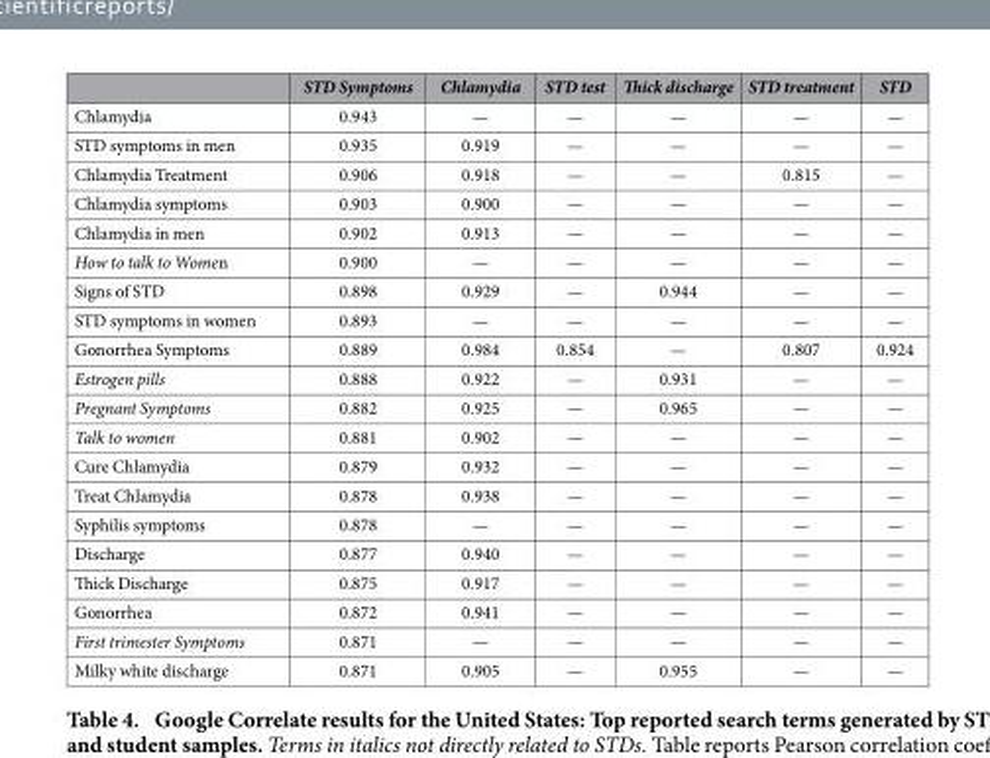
<table><thead><tr><td></td><td>STD Symptoms</td><td>Chlamydia</td><td>STD test</td><td>Thick discharge</td><td>STD treatment</td><td>STD</td></tr></thead><tbody><tr><td>Chlamydia</td><td>0.943</td><td>—</td><td>—</td><td>—</td><td>—</td><td>—</td></tr><tr><td>STD symptoms in men</td><td>0.935</td><td>0.919</td><td>—</td><td>—</td><td>—</td><td>—</td></tr><tr><td>Chlamydia Treatment</td><td>0.906</td><td>0.918</td><td>—</td><td>—</td><td>0.815</td><td>—</td></tr><tr><td>Chlamydia symptoms</td><td>0.903</td><td>0.900</td><td>—</td><td>—</td><td>—</td><td>—</td></tr><tr><td>Chlamydia in men</td><td>0.902</td><td>0.913</td><td>—</td><td>—</td><td>—</td><td>—</td></tr><tr><td>How to talk to Women</td><td>0.900</td><td>—</td><td>—</td><td>—</td><td>—</td><td>—</td></tr><tr><td>Signs of STD</td><td>0.898</td><td>0.929</td><td>—</td><td>0.944</td><td>—</td><td>—</td></tr><tr><td>STD symptoms in women</td><td>0.893</td><td>—</td><td>—</td><td>—</td><td>—</td><td>—</td></tr><tr><td>Gonorrhea Symptoms</td><td>0.889</td><td>0.984</td><td>0.854</td><td>—</td><td>0.807</td><td>0.924</td></tr><tr><td>Estrogen pills</td><td>0.888</td><td>0.922</td><td>—</td><td>0.931</td><td>—</td><td>—</td></tr><tr><td>Pregnant Symptoms</td><td>0.882</td><td>0.925</td><td>—</td><td>0.965</td><td>—</td><td>—</td></tr><tr><td>Talk to women</td><td>0.881</td><td>0.902</td><td>—</td><td>—</td><td>—</td><td>—</td></tr><tr><td>Cure Chlamydia</td><td>0.879</td><td>0.932</td><td>—</td><td>—</td><td>—</td><td>—</td></tr><tr><td>Treat Chlamydia</td><td>0.878</td><td>0.938</td><td>—</td><td>—</td><td>—</td><td>—</td></tr><tr><td>Syphilis symptoms</td><td>0.878</td><td>—</td><td>—</td><td>—</td><td>—</td><td>—</td></tr><tr><td>Discharge</td><td>0.877</td><td>0.940</td><td>—</td><td>—</td><td>—</td><td>—</td></tr><tr><td>Thick Discharge</td><td>0.875</td><td>0.917</td><td>—</td><td>—</td><td>—</td><td>—</td></tr><tr><td>Gonorrhea</td><td>0.872</td><td>0.941</td><td>—</td><td>—</td><td>—</td><td>—</td></tr><tr><td>First trimester Symptoms</td><td>0.871</td><td>—</td><td>—</td><td>—</td><td>—</td><td>—</td></tr><tr><td>Milky white discharge</td><td>0.871</td><td>0.905</td><td>—</td><td>0.955</td><td>—</td><td>—</td></tr></tbody></table>